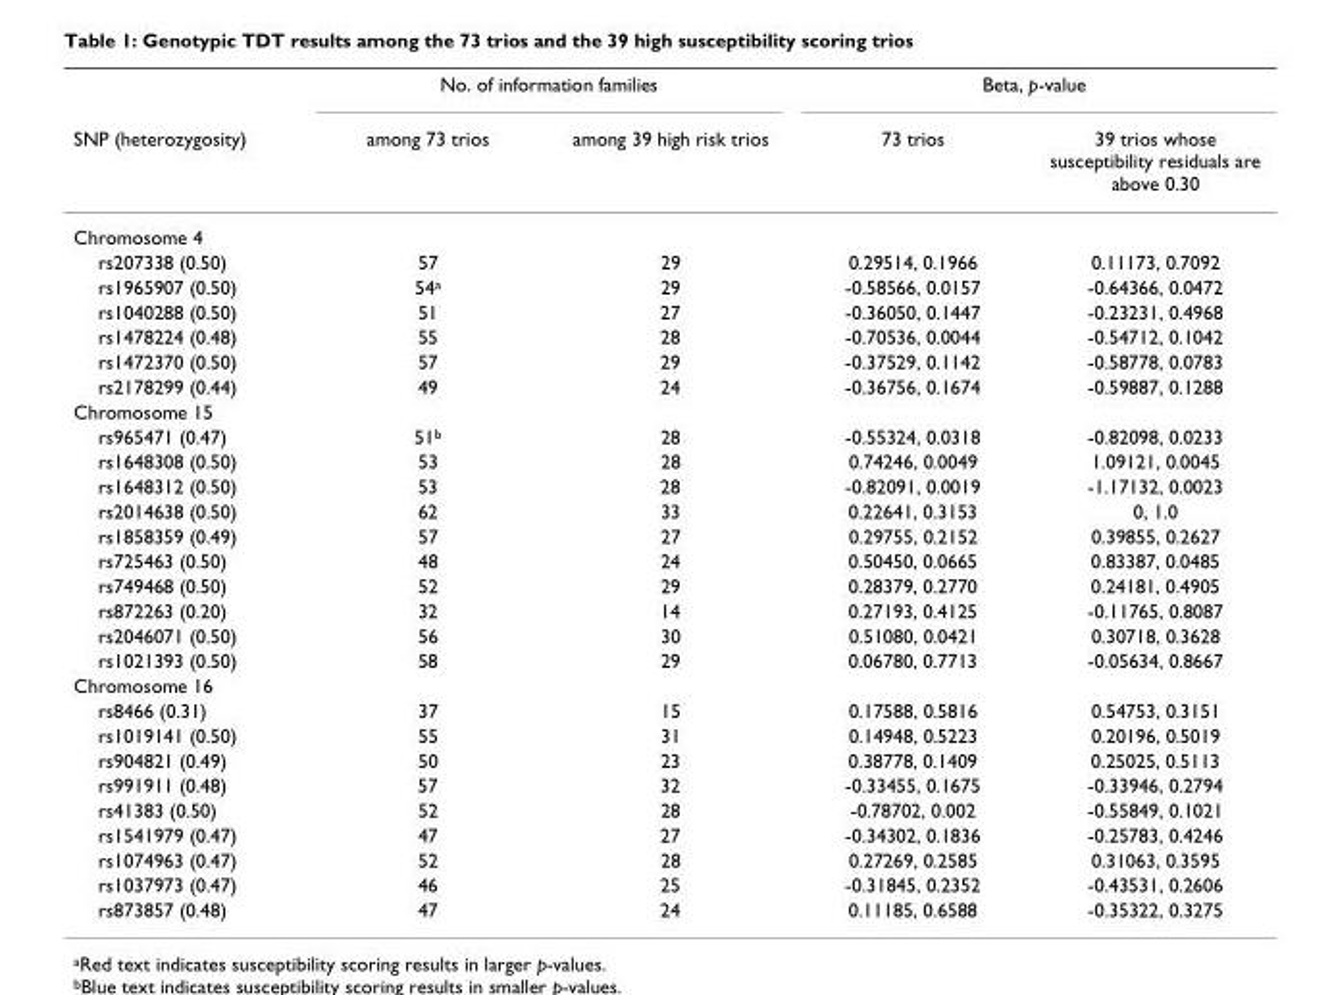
<table><thead><tr><td rowspan="2">SNP (heterozygosity)</td><td colspan="2">No. of information families</td><td colspan="2">Beta, p-value</td></tr><tr><td>among 73 trios</td><td>among 39 high risk trios</td><td>73 trios</td><td>39 trios whose susceptibility residuals are above 0.30</td></tr></thead><tbody><tr><td colspan="5">Chromosome 4</td></tr><tr><td>rs207338 (0.50)</td><td>57</td><td>29</td><td>0.29514, 0.1966</td><td>0.11173, 0.7092</td></tr><tr><td>rs1965907 (0.50)</td><td>54a</td><td>29</td><td>-0.58566, 0.0157</td><td>-0.64366, 0.0472</td></tr><tr><td>rs1040288 (0.50)</td><td>51</td><td>27</td><td>-0.36050, 0.1447</td><td>-0.23231, 0.4968</td></tr><tr><td>rs1478224 (0.48)</td><td>55</td><td>28</td><td>-0.70536, 0.0044</td><td>-0.54712, 0.1042</td></tr><tr><td>rs1472370 (0.50)</td><td>57</td><td>29</td><td>-0.37529, 0.1142</td><td>-0.58778, 0.0783</td></tr><tr><td>rs2178299 (0.44)</td><td>49</td><td>24</td><td>-0.36756, 0.1674</td><td>-0.59887, 0.1288</td></tr><tr><td colspan="5">Chromosome 15</td></tr><tr><td>rs965471 (0.47)</td><td>51b</td><td>28</td><td>-0.55324, 0.0318</td><td>-0.82098, 0.0233</td></tr><tr><td>rs1648308 (0.50)</td><td>53</td><td>28</td><td>0.74246, 0.0049</td><td>1.09121, 0.0045</td></tr><tr><td>rs1648312 (0.50)</td><td>53</td><td>28</td><td>-0.82091, 0.0019</td><td>-1.17132, 0.0023</td></tr><tr><td>rs2014638 (0.50)</td><td>62</td><td>33</td><td>0.22641, 0.3153</td><td>0, 1.0</td></tr><tr><td>rs1858359 (0.49)</td><td>57</td><td>27</td><td>0.29755, 0.2152</td><td>0.39855, 0.2627</td></tr><tr><td>rs725463 (0.50)</td><td>48</td><td>24</td><td>0.50450, 0.0665</td><td>0.83387, 0.0485</td></tr><tr><td>rs749468 (0.50)</td><td>52</td><td>29</td><td>0.28379, 0.2770</td><td>0.24181, 0.4905</td></tr><tr><td>rs872263 (0.20)</td><td>32</td><td>14</td><td>0.27193, 0.4125</td><td>-0.11765, 0.8087</td></tr><tr><td>rs2046071 (0.50)</td><td>56</td><td>30</td><td>0.51080, 0.0421</td><td>0.30718, 0.3628</td></tr><tr><td>rs1021393 (0.50)</td><td>58</td><td>29</td><td>0.06780, 0.7713</td><td>-0.05634, 0.8667</td></tr><tr><td colspan="5">Chromosome 16</td></tr><tr><td>rs8466 (0.31)</td><td>37</td><td>15</td><td>0.17588, 0.5816</td><td>0.54753, 0.3151</td></tr><tr><td>rs1019141 (0.50)</td><td>55</td><td>31</td><td>0.14948, 0.5223</td><td>0.20196, 0.5019</td></tr><tr><td>rs904821 (0.49)</td><td>50</td><td>23</td><td>0.38778, 0.1409</td><td>0.25025, 0.5113</td></tr><tr><td>rs991911 (0.48)</td><td>57</td><td>32</td><td>-0.33455, 0.1675</td><td>-0.33946, 0.2794</td></tr><tr><td>rs41383 (0.50)</td><td>52</td><td>28</td><td>-0.78702, 0.002</td><td>-0.55849, 0.1021</td></tr><tr><td>rs1541979 (0.47)</td><td>47</td><td>27</td><td>-0.34302, 0.1836</td><td>-0.25783, 0.4246</td></tr><tr><td>rs1074963 (0.47)</td><td>52</td><td>28</td><td>0.27269, 0.2585</td><td>0.31063, 0.3595</td></tr><tr><td>rs1037973 (0.47)</td><td>46</td><td>25</td><td>-0.31845, 0.2352</td><td>-0.43531, 0.2606</td></tr><tr><td>rs873857 (0.48)</td><td>47</td><td>24</td><td>0.11185, 0.6588</td><td>-0.35322, 0.3275</td></tr></tbody></table>